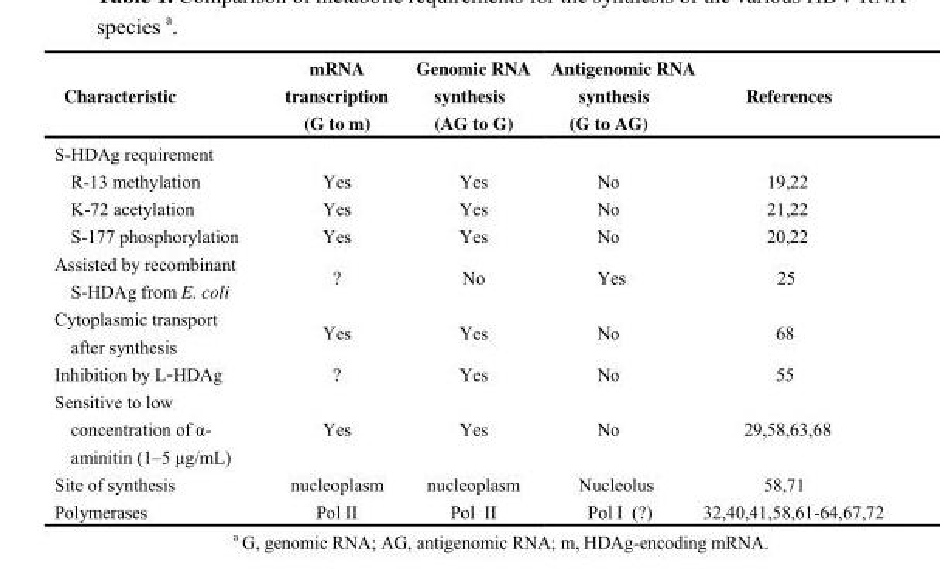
<table><thead><tr><td>Characteristic</td><td>mRNA transcription (G to m)</td><td>Genomic RNA synthesis (AG to G)</td><td>Antigenomic RNA synthesis (G to AG)</td><td>References</td></tr></thead><tbody><tr><td colspan="5">S-HDAg requirement</td></tr><tr><td>R-13 methylation</td><td>Yes</td><td>Yes</td><td>No</td><td>19,22</td></tr><tr><td>K-72 acetylation</td><td>Yes</td><td>Yes</td><td>No</td><td>21,22</td></tr><tr><td>S-177 phosphorylation</td><td>Yes</td><td>Yes</td><td>No</td><td>20,22</td></tr><tr><td>Assisted by recombinant S-HDAg from E. coli</td><td>?</td><td>No</td><td>Yes</td><td>25</td></tr><tr><td>Cytoplasmic transport after synthesis</td><td>Yes</td><td>Yes</td><td>No</td><td>68</td></tr><tr><td>Inhibition by L-HDAg</td><td>?</td><td>Yes</td><td>No</td><td>55</td></tr><tr><td>Sensitive to low concentration of α- aminitin (1–5 μg/mL)</td><td>Yes</td><td>Yes</td><td>No</td><td>29,58,63,68</td></tr><tr><td>Site of synthesis</td><td>nucleoplasm</td><td>nucleoplasm</td><td>Nucleolus</td><td>58,71</td></tr><tr><td>Polymerases</td><td>Pol II</td><td>Pol II</td><td>Pol I (?)</td><td>32,40,41,58,61-64,67,72</td></tr></tbody></table>